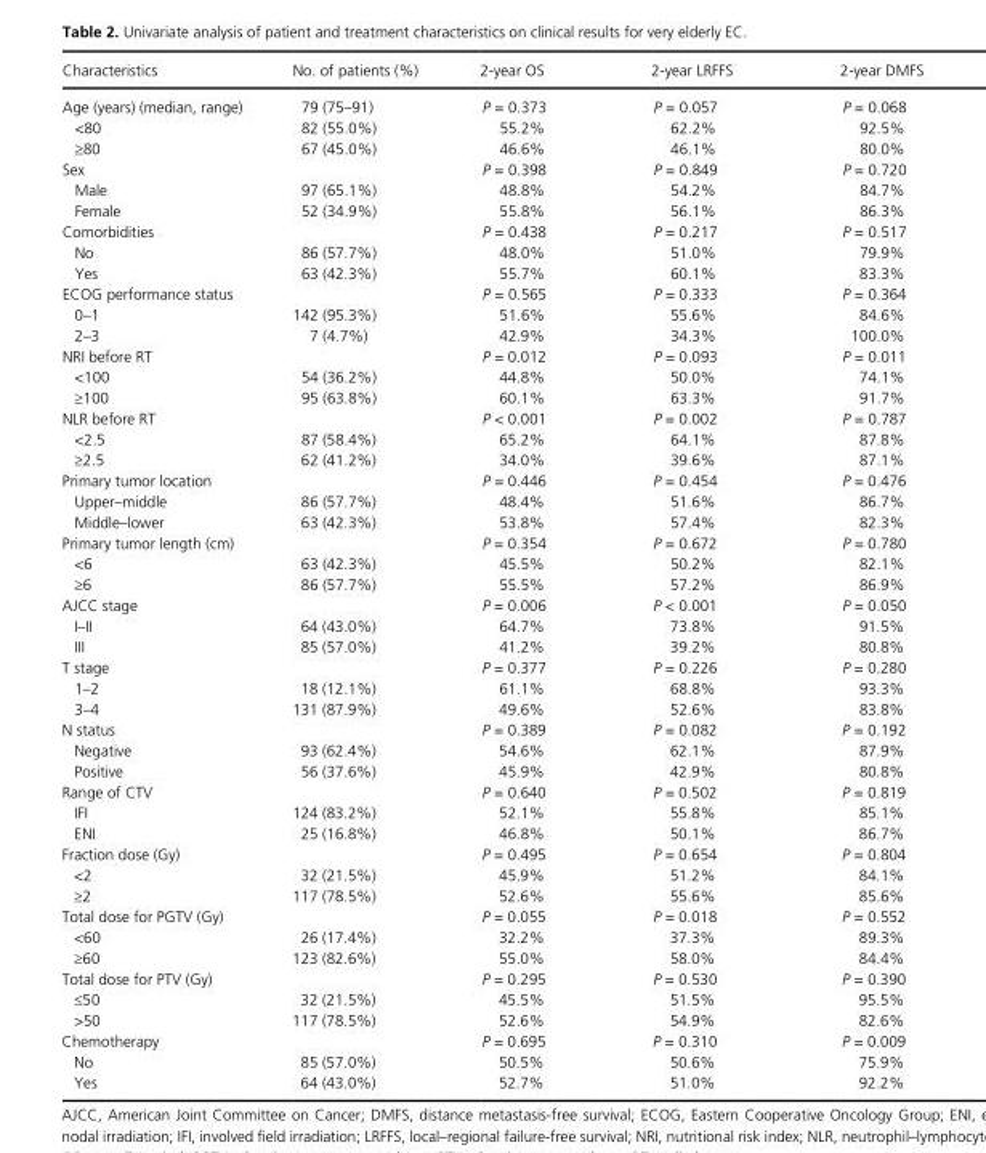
<table><thead><tr><td>Characteristics</td><td>No. of patients (%)</td><td>2- year OS</td><td>2- year LRFFS</td><td>2- year DMFS</td></tr></thead><tbody><tr><td>Age (years) (median, range)</td><td>79 (75–91)</td><td>P = 0.373</td><td>P = 0.057</td><td>P = 0.068</td></tr><tr><td>&lt;80</td><td>82 (55.0%)</td><td>55.2%</td><td>62.2%</td><td>92.5%</td></tr><tr><td>≥80</td><td>67 (45.0%)</td><td>46.6%</td><td>46.1%</td><td>80.0%</td></tr><tr><td>Sex</td><td></td><td>P = 0.398</td><td>P = 0.849</td><td>P = 0.720</td></tr><tr><td>Male</td><td>97 (65.1%)</td><td>48.8%</td><td>54.2%</td><td>84.7%</td></tr><tr><td>Female</td><td>52 (34.9%)</td><td>55.8%</td><td>56.1%</td><td>86.3%</td></tr><tr><td>Comorbidities</td><td></td><td>P = 0.438</td><td>P = 0.217</td><td>P = 0.517</td></tr><tr><td>No</td><td>86 (57.7%)</td><td>48.0%</td><td>51.0%</td><td>79.9%</td></tr><tr><td>Yes</td><td>63 (42.3%)</td><td>55.7%</td><td>60.1%</td><td>83.3%</td></tr><tr><td>ECOG performance status</td><td></td><td>P = 0.565</td><td>P = 0.333</td><td>P = 0.364</td></tr><tr><td>0–1</td><td>142 (95.3%)</td><td>51.6%</td><td>55.6%</td><td>84.6%</td></tr><tr><td>2–3</td><td>7 (4.7%)</td><td>42.9%</td><td>34.3%</td><td>100.0%</td></tr><tr><td>NRI before RT</td><td></td><td>P = 0.012</td><td>P = 0.093</td><td>P = 0.011</td></tr><tr><td>&lt;100</td><td>54 (36.2%)</td><td>44.8%</td><td>50.0%</td><td>74.1%</td></tr><tr><td>≥100</td><td>95 (63.8%)</td><td>60.1%</td><td>63.3%</td><td>91.7%</td></tr><tr><td>NLR before RT</td><td></td><td>P &lt; 0.001</td><td>P = 0.002</td><td>P = 0.787</td></tr><tr><td>&lt;2.5</td><td>87 (58.4%)</td><td>65.2%</td><td>64.1%</td><td>87.8%</td></tr><tr><td>≥2.5</td><td>62 (41.2%)</td><td>34.0%</td><td>39.6%</td><td>87.1%</td></tr><tr><td>Primary tumor location</td><td></td><td>P = 0.446</td><td>P = 0.454</td><td>P = 0.476</td></tr><tr><td>Upper–middle</td><td>86 (57.7%)</td><td>48.4%</td><td>51.6%</td><td>86.7%</td></tr><tr><td>Middle–lower</td><td>63 (42.3%)</td><td>53.8%</td><td>57.4%</td><td>82.3%</td></tr><tr><td>Primary tumor length (cm)</td><td></td><td>P = 0.354</td><td>P = 0.672</td><td>P = 0.780</td></tr><tr><td>&lt;6</td><td>63 (42.3%)</td><td>45.5%</td><td>50.2%</td><td>82.1%</td></tr><tr><td>≥6</td><td>86 (57.7%)</td><td>55.5%</td><td>57.2%</td><td>86.9%</td></tr><tr><td>AJCC stage</td><td></td><td>P = 0.006</td><td>P &lt; 0.001</td><td>P = 0.050</td></tr><tr><td>I–II</td><td>64 (43.0%)</td><td>64.7%</td><td>73.8%</td><td>91.5%</td></tr><tr><td>III</td><td>85 (57.0%)</td><td>41.2%</td><td>39.2%</td><td>80.8%</td></tr><tr><td>T stage</td><td></td><td>P = 0.377</td><td>P = 0.226</td><td>P = 0.280</td></tr><tr><td>1–2</td><td>18 (12.1%)</td><td>61.1%</td><td>68.8%</td><td>93.3%</td></tr><tr><td>3–4</td><td>131 (87.9%)</td><td>49.6%</td><td>52.6%</td><td>83.8%</td></tr><tr><td>N status</td><td></td><td>P = 0.389</td><td>P = 0.082</td><td>P = 0.192</td></tr><tr><td>Negative</td><td>93 (62.4%)</td><td>54.6%</td><td>62.1%</td><td>87.9%</td></tr><tr><td>Positive</td><td>56 (37.6%)</td><td>45.9%</td><td>42.9%</td><td>80.8%</td></tr><tr><td>Range of CTV</td><td></td><td>P = 0.640</td><td>P = 0.502</td><td>P = 0.819</td></tr><tr><td>IFI</td><td>124 (83.2%)</td><td>52.1%</td><td>55.8%</td><td>85.1%</td></tr><tr><td>ENI</td><td>25 (16.8%)</td><td>46.8%</td><td>50.1%</td><td>86.7%</td></tr><tr><td>Fraction dose (Gy)</td><td></td><td>P = 0.495</td><td>P = 0.654</td><td>P = 0.804</td></tr><tr><td>&lt;2</td><td>32 (21.5%)</td><td>45.9%</td><td>51.2%</td><td>84.1%</td></tr><tr><td>≥2</td><td>117 (78.5%)</td><td>52.6%</td><td>55.6%</td><td>85.6%</td></tr><tr><td>Total dose for PGTV (Gy)</td><td></td><td>P = 0.055</td><td>P = 0.018</td><td>P = 0.552</td></tr><tr><td>&lt;60</td><td>26 (17.4%)</td><td>32.2%</td><td>37.3%</td><td>89.3%</td></tr><tr><td>≥60</td><td>123 (82.6%)</td><td>55.0%</td><td>58.0%</td><td>84.4%</td></tr><tr><td>Total dose for PTV (Gy)</td><td></td><td>P = 0.295</td><td>P = 0.530</td><td>P = 0.390</td></tr><tr><td>≤50</td><td>32 (21.5%)</td><td>45.5%</td><td>51.5%</td><td>95.5%</td></tr><tr><td>&gt;50</td><td>117 (78.5%)</td><td>52.6%</td><td>54.9%</td><td>82.6%</td></tr><tr><td>Chemotherapy</td><td></td><td>P = 0.695</td><td>P = 0.310</td><td>P = 0.009</td></tr><tr><td>No</td><td>85 (57.0%)</td><td>50.5%</td><td>50.6%</td><td>75.9%</td></tr><tr><td>Yes</td><td>64 (43.0%)</td><td>52.7%</td><td>51.0%</td><td>92.2%</td></tr></tbody></table>